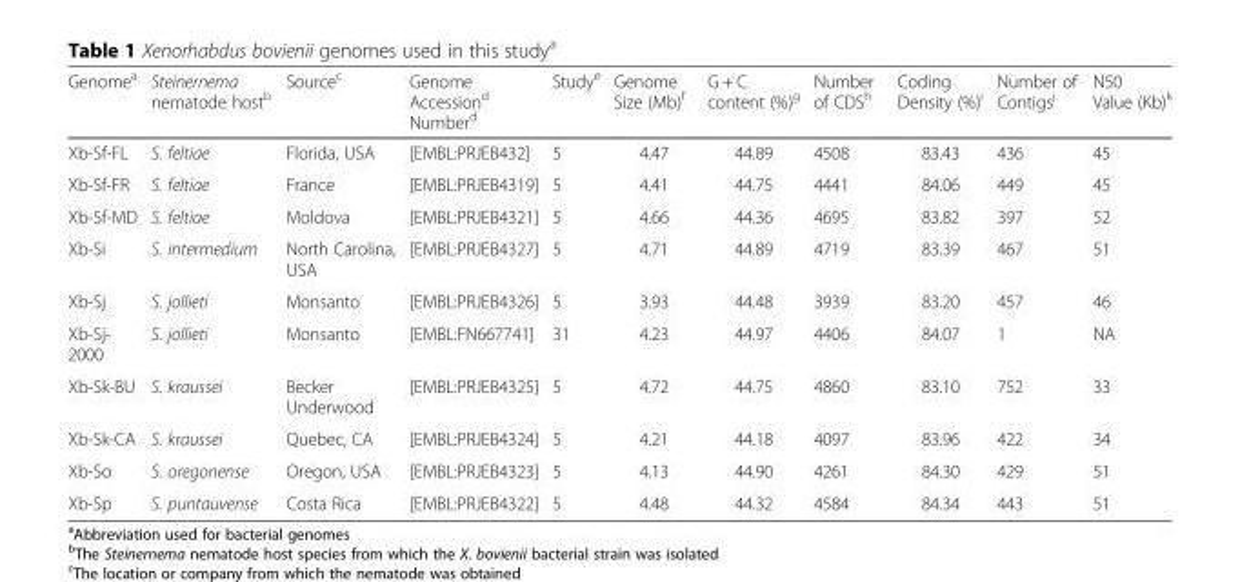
<table><thead><tr><td>Genome<sup>a</sup></td><td>Steinernema nematode host<sup>b</sup></td><td>Source<sup>c</sup></td><td>Genome Accession<sup>d</sup> Number<sup>d</sup></td><td>Study<sup>e</sup></td><td>Genome Size (Mb)<sup>f</sup></td><td>G + C content (%)<sup>g</sup></td><td>Number of CDS<sup>h</sup></td><td>Coding Density (%)<sup>i</sup></td><td>Number of Contigs<sup>j</sup></td><td>N50 Value (Kb)<sup>k</sup></td></tr></thead><tbody><tr><td>Xb-Sf-FL</td><td>S. feltiae</td><td>Florida, USA</td><td>[EMBL:PRJEB432]</td><td>5</td><td>4.47</td><td>44.89</td><td>4508</td><td>83.43</td><td>436</td><td>45</td></tr><tr><td>Xb-Sf-FR</td><td>S. feltiae</td><td>France</td><td>[EMBL:PRJEB4319]</td><td>5</td><td>4.41</td><td>44.75</td><td>4441</td><td>84.06</td><td>449</td><td>45</td></tr><tr><td>Xb-Sf-MD</td><td>S. feltiae</td><td>Moldova</td><td>[EMBL:PRJEB4321]</td><td>5</td><td>4.66</td><td>44.36</td><td>4695</td><td>83.82</td><td>397</td><td>52</td></tr><tr><td>Xb-Si</td><td>S. intermedium</td><td>North Carolina, USA</td><td>[EMBL:PRJEB4327]</td><td>5</td><td>4.71</td><td>44.89</td><td>4719</td><td>83.39</td><td>467</td><td>51</td></tr><tr><td>Xb-Sj</td><td>S. jollieti</td><td>Monsanto</td><td>[EMBL:PRJEB4326]</td><td>5</td><td>3.93</td><td>44.48</td><td>3939</td><td>83.20</td><td>457</td><td>46</td></tr><tr><td>Xb-Sj- 2000</td><td>S. jollieti</td><td>Monsanto</td><td>[EMBL:FN667741]</td><td>31</td><td>4.23</td><td>44.97</td><td>4406</td><td>84.07</td><td>1</td><td>NA</td></tr><tr><td>Xb-Sk-BU</td><td>S. kraussei</td><td>Becker Underwood</td><td>[EMBL:PRJEB4325]</td><td>5</td><td>4.72</td><td>44.75</td><td>4860</td><td>83.10</td><td>752</td><td>33</td></tr><tr><td>Xb-Sk-CA</td><td>S. kraussei</td><td>Quebec, CA</td><td>[EMBL:PRJEB4324]</td><td>5</td><td>4.21</td><td>44.18</td><td>4097</td><td>83.96</td><td>422</td><td>34</td></tr><tr><td>Xb-So</td><td>S. oregonense</td><td>Oregon, USA</td><td>[EMBL:PRJEB4323]</td><td>5</td><td>4.13</td><td>44.90</td><td>4261</td><td>84.30</td><td>429</td><td>51</td></tr><tr><td>Xb-Sp</td><td>S. puntauvense</td><td>Costa Rica</td><td>[EMBL:PRJEB4322]</td><td>5</td><td>4.48</td><td>44.32</td><td>4584</td><td>84.34</td><td>443</td><td>51</td></tr></tbody></table>